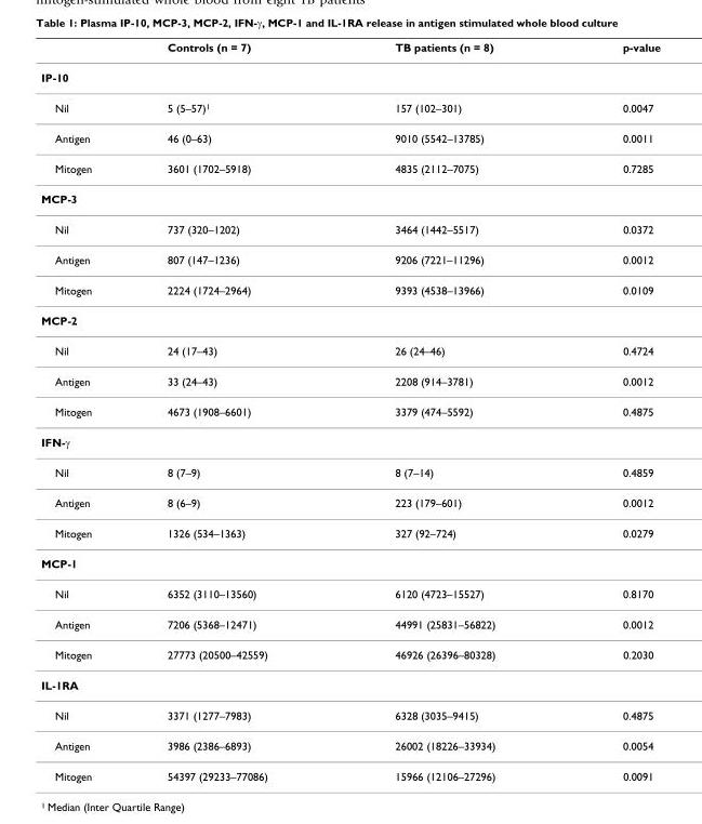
<table><thead><tr><td></td><td>Controls (n = 7)</td><td>TB patients (n = 8)</td><td>p-value</td></tr></thead><tbody><tr><td colspan="4">IP-10</td></tr><tr><td>Nil</td><td>5 (5–57)<sup>1</sup></td><td>157 (102–301)</td><td>0.0047</td></tr><tr><td>Antigen</td><td>46 (0–63)</td><td>9010 (5542–13785)</td><td>0.0011</td></tr><tr><td>Mitogen</td><td>3601 (1702–5918)</td><td>4835 (2112–7075)</td><td>0.7285</td></tr><tr><td colspan="4">MCP-3</td></tr><tr><td>Nil</td><td>737 (320–1202)</td><td>3464 (1442–5517)</td><td>0.0372</td></tr><tr><td>Antigen</td><td>807 (147–1236)</td><td>9206 (7221–11296)</td><td>0.0012</td></tr><tr><td>Mitogen</td><td>2224 (1724–2964)</td><td>9393 (4538–13966)</td><td>0.0109</td></tr><tr><td colspan="4">MCP-2</td></tr><tr><td>Nil</td><td>24 (17–43)</td><td>26 (24–46)</td><td>0.4724</td></tr><tr><td>Antigen</td><td>33 (24–43)</td><td>2208 (914–3781)</td><td>0.0012</td></tr><tr><td>Mitogen</td><td>4673 (1908–6601)</td><td>3379 (474–5592)</td><td>0.4875</td></tr><tr><td colspan="4">IFN-γ</td></tr><tr><td>Nil</td><td>8 (7–9)</td><td>8 (7–14)</td><td>0.4859</td></tr><tr><td>Antigen</td><td>8 (6–9)</td><td>223 (179–601)</td><td>0.0012</td></tr><tr><td>Mitogen</td><td>1326 (534–1363)</td><td>327 (92–724)</td><td>0.0279</td></tr><tr><td colspan="4">MCP-1</td></tr><tr><td>Nil</td><td>6352 (3110–13560)</td><td>6120 (4723–15527)</td><td>0.8170</td></tr><tr><td>Antigen</td><td>7206 (5368–12471)</td><td>44991 (25831–56822)</td><td>0.0012</td></tr><tr><td>Mitogen</td><td>27773 (20500–42559)</td><td>46926 (26396–80328)</td><td>0.2030</td></tr><tr><td colspan="4">IL-1RA</td></tr><tr><td>Nil</td><td>3371 (1277–7983)</td><td>6328 (3035–9415)</td><td>0.4875</td></tr><tr><td>Antigen</td><td>3986 (2386–6893)</td><td>26002 (18226–33934)</td><td>0.0054</td></tr><tr><td>Mitogen</td><td>54397 (29233–77086)</td><td>15966 (12106–27296)</td><td>0.0091</td></tr></tbody></table>